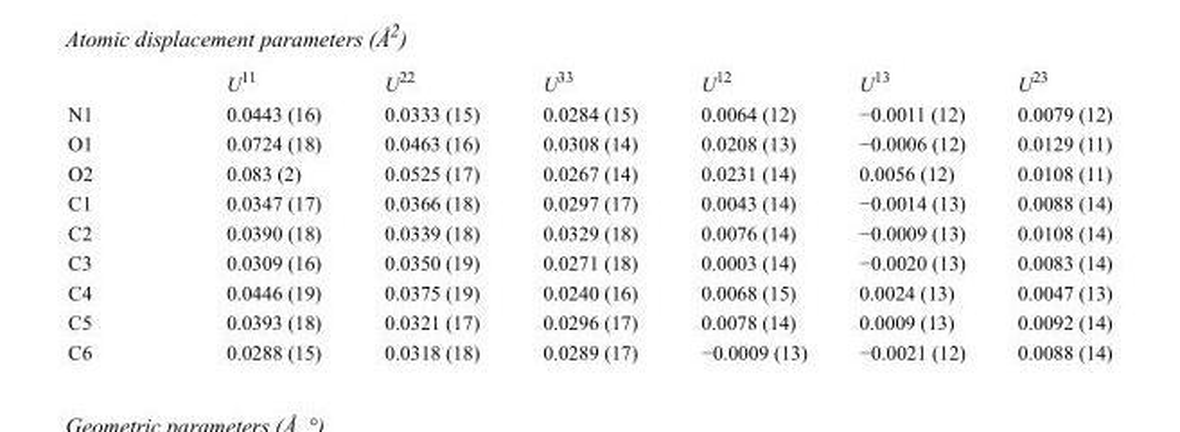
<table><thead><tr><td></td><td>U<sup>11</sup></td><td>U<sup>22</sup></td><td>U<sup>33</sup></td><td>U<sup>12</sup></td><td>U<sup>13</sup></td><td>U<sup>23</sup></td></tr></thead><tbody><tr><td>N1</td><td>0.0443 (16)</td><td>0.0333 (15)</td><td>0.0284 (15)</td><td>0.0064 (12)</td><td>−0.0011 (12)</td><td>0.0079 (12)</td></tr><tr><td>O1</td><td>0.0724 (18)</td><td>0.0463 (16)</td><td>0.0308 (14)</td><td>0.0208 (13)</td><td>−0.0006 (12)</td><td>0.0129 (11)</td></tr><tr><td>O2</td><td>0.083 (2)</td><td>0.0525 (17)</td><td>0.0267 (14)</td><td>0.0231 (14)</td><td>0.0056 (12)</td><td>0.0108 (11)</td></tr><tr><td>C1</td><td>0.0347 (17)</td><td>0.0366 (18)</td><td>0.0297 (17)</td><td>0.0043 (14)</td><td>−0.0014 (13)</td><td>0.0088 (14)</td></tr><tr><td>C2</td><td>0.0390 (18)</td><td>0.0339 (18)</td><td>0.0329 (18)</td><td>0.0076 (14)</td><td>−0.0009 (13)</td><td>0.0108 (14)</td></tr><tr><td>C3</td><td>0.0309 (16)</td><td>0.0350 (19)</td><td>0.0271 (18)</td><td>0.0003 (14)</td><td>−0.0020 (13)</td><td>0.0083 (14)</td></tr><tr><td>C4</td><td>0.0446 (19)</td><td>0.0375 (19)</td><td>0.0240 (16)</td><td>0.0068 (15)</td><td>0.0024 (13)</td><td>0.0047 (13)</td></tr><tr><td>C5</td><td>0.0393 (18)</td><td>0.0321 (17)</td><td>0.0296 (17)</td><td>0.0078 (14)</td><td>0.0009 (13)</td><td>0.0092 (14)</td></tr><tr><td>C6</td><td>0.0288 (15)</td><td>0.0318 (18)</td><td>0.0289 (17)</td><td>−0.0009 (13)</td><td>−0.0021 (12)</td><td>0.0088 (14)</td></tr></tbody></table>